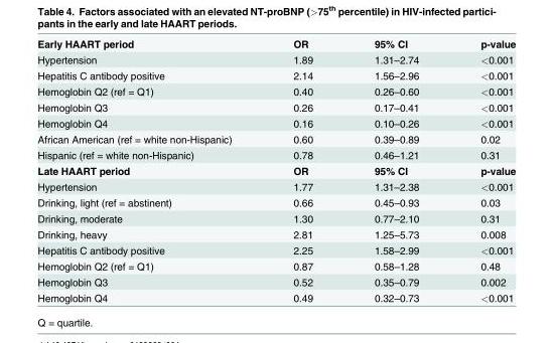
<table><tbody><tr><td>Early HAART period</td><td>OR</td><td>95% CI</td><td>p-value</td></tr><tr><td>Hypertension</td><td>1.89</td><td>1.31–2.74</td><td>&lt;0.001</td></tr><tr><td>Hepatitis C antibody positive</td><td>2.14</td><td>1.56–2.96</td><td>&lt;0.001</td></tr><tr><td>Hemoglobin Q2 (ref = Q1)</td><td>0.40</td><td>0.26–0.60</td><td>&lt;0.001</td></tr><tr><td>Hemoglobin Q3</td><td>0.26</td><td>0.17–0.41</td><td>&lt;0.001</td></tr><tr><td>Hemoglobin Q4</td><td>0.16</td><td>0.10–0.26</td><td>&lt;0.001</td></tr><tr><td>African American (ref = white non-Hispanic)</td><td>0.60</td><td>0.39–0.89</td><td>0.02</td></tr><tr><td>Hispanic (ref = white non-Hispanic)</td><td>0.78</td><td>0.46–1.21</td><td>0.31</td></tr><tr><td>Late HAART period</td><td>OR</td><td>95% CI</td><td>p-value</td></tr><tr><td>Hypertension</td><td>1.77</td><td>1.31–2.38</td><td>&lt;0.001</td></tr><tr><td>Drinking, light (ref = abstinent)</td><td>0.66</td><td>0.45–0.93</td><td>0.03</td></tr><tr><td>Drinking, moderate</td><td>1.30</td><td>0.77–2.10</td><td>0.31</td></tr><tr><td>Drinking, heavy</td><td>2.81</td><td>1.25–5.73</td><td>0.008</td></tr><tr><td>Hepatitis C antibody positive</td><td>2.25</td><td>1.58–2.99</td><td>&lt;0.001</td></tr><tr><td>Hemoglobin Q2 (ref = Q1)</td><td>0.87</td><td>0.58–1.28</td><td>0.48</td></tr><tr><td>Hemoglobin Q3</td><td>0.52</td><td>0.35–0.79</td><td>0.002</td></tr><tr><td>Hemoglobin Q4</td><td>0.49</td><td>0.32–0.73</td><td>&lt;0.001</td></tr></tbody></table>